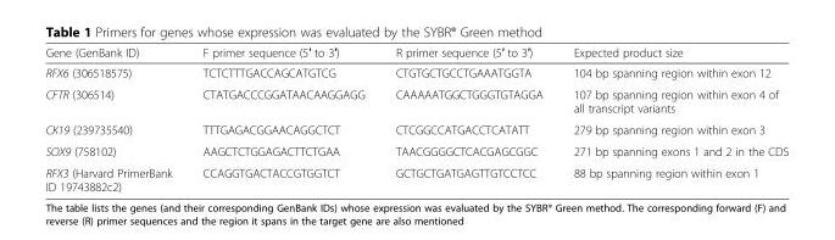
<table><thead><tr><td>Gene (GenBank ID)</td><td>F primer sequence (5′ to 3′)</td><td>R primer sequence (5′ to 3′)</td><td>Expected product size</td></tr></thead><tbody><tr><td>RFX6 (306518575)</td><td>TCTCTTTGACCAGCATGTCG</td><td>CTGTGCTGCCTGAAATGGTA</td><td>104 bp spanning region within exon 12</td></tr><tr><td>CFTR (306514)</td><td>CTATGACCCGGATAACAAGGAGG</td><td>CAAAAATGGCTGGGTGTAGGA</td><td>107 bp spanning region within exon 4 of all transcript variants</td></tr><tr><td>CK19 (239735540)</td><td>TTTGAGACGGAACAGGCTCT</td><td>CTCGGCCATGACCTCATATT</td><td>279 bp spanning region within exon 3</td></tr><tr><td>SOX9 (758102)</td><td>AAGCTCTGGAGACTTCTGAA</td><td>TAACGGGGCTCACGAGCGGC</td><td>271 bp spanning exons 1 and 2 in the CDS</td></tr><tr><td>RFX3 (Harvard PrimerBank ID 19743882c2)</td><td>CCAGGTGACTACCGTGGTCT</td><td>GCTGCTGATGAGTTGTCCTCC</td><td>88 bp spanning region within exon 1</td></tr></tbody></table>